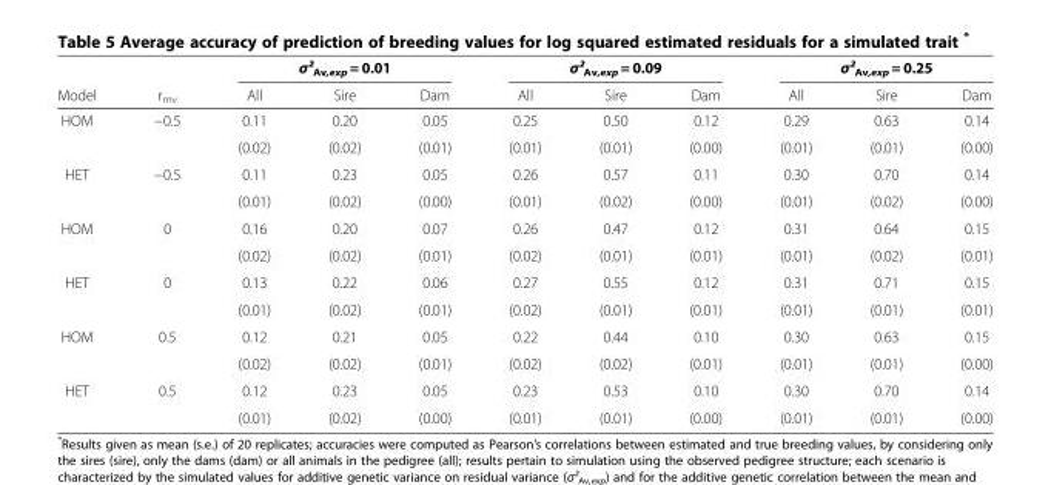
<table><thead><tr><td rowspan="2">Model</td><td rowspan="2">r<sub>mv</sub></td><td colspan="3">σ²<sub>Av,exp</sub> = 0.01</td><td colspan="3">σ²<sub>Av,exp</sub> = 0.09</td><td colspan="3">σ²<sub>Av,exp</sub> = 0.25</td></tr><tr><td>All</td><td>Sire</td><td>Dam</td><td>All</td><td>Sire</td><td>Dam</td><td>All</td><td>Sire</td><td>Dam</td></tr></thead><tbody><tr><td rowspan="2">HOM</td><td rowspan="2">−0.5</td><td>0.11</td><td>0.20</td><td>0.05</td><td>0.25</td><td>0.50</td><td>0.12</td><td>0.29</td><td>0.63</td><td>0.14</td></tr><tr><td>(0.02)</td><td>(0.02)</td><td>(0.01)</td><td>(0.01)</td><td>(0.01)</td><td>(0.00)</td><td>(0.01)</td><td>(0.01)</td><td>(0.00)</td></tr><tr><td rowspan="2">HET</td><td rowspan="2">−0.5</td><td>0.11</td><td>0.23</td><td>0.05</td><td>0.26</td><td>0.57</td><td>0.11</td><td>0.30</td><td>0.70</td><td>0.14</td></tr><tr><td>(0.01)</td><td>(0.02)</td><td>(0.00)</td><td>(0.01)</td><td>(0.02)</td><td>(0.00)</td><td>(0.01)</td><td>(0.02)</td><td>(0.00)</td></tr><tr><td rowspan="2">HOM</td><td rowspan="2">0</td><td>0.16</td><td>0.20</td><td>0.07</td><td>0.26</td><td>0.47</td><td>0.12</td><td>0.31</td><td>0.64</td><td>0.15</td></tr><tr><td>(0.02)</td><td>(0.02)</td><td>(0.01)</td><td>(0.02)</td><td>(0.01)</td><td>(0.01)</td><td>(0.01)</td><td>(0.02)</td><td>(0.01)</td></tr><tr><td rowspan="2">HET</td><td rowspan="2">0</td><td>0.13</td><td>0.22</td><td>0.06</td><td>0.27</td><td>0.55</td><td>0.12</td><td>0.31</td><td>0.71</td><td>0.15</td></tr><tr><td>(0.01)</td><td>(0.02)</td><td>(0.01)</td><td>(0.02)</td><td>(0.01)</td><td>(0.01)</td><td>(0.01)</td><td>(0.01)</td><td>(0.01)</td></tr><tr><td rowspan="2">HOM</td><td rowspan="2">0.5</td><td>0.12</td><td>0.21</td><td>0.05</td><td>0.22</td><td>0.44</td><td>0.10</td><td>0.30</td><td>0.63</td><td>0.15</td></tr><tr><td>(0.02)</td><td>(0.02)</td><td>(0.01)</td><td>(0.02)</td><td>(0.02)</td><td>(0.01)</td><td>(0.01)</td><td>(0.01)</td><td>(0.00)</td></tr><tr><td rowspan="2">HET</td><td rowspan="2">0.5</td><td>0.12</td><td>0.23</td><td>0.05</td><td>0.23</td><td>0.53</td><td>0.10</td><td>0.30</td><td>0.70</td><td>0.14</td></tr><tr><td>(0.01)</td><td>(0.02)</td><td>(0.00)</td><td>(0.01)</td><td>(0.01)</td><td>(0.00)</td><td>(0.01)</td><td>(0.01)</td><td>(0.00)</td></tr></tbody></table>